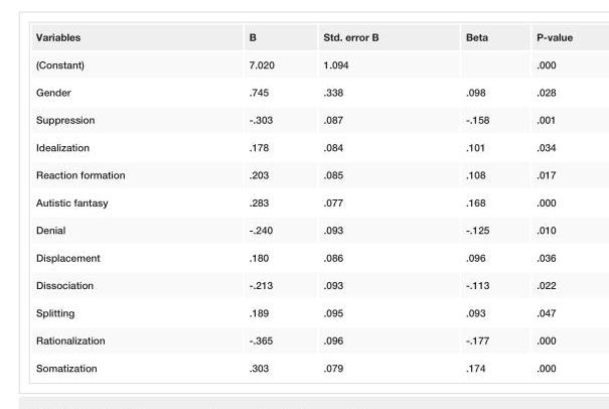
<table><tbody><tr><td>Variables</td><td>B</td><td>Std. error B</td><td>Beta</td><td>P-value</td></tr><tr><td>(Constant)</td><td>7.020</td><td>1.094</td><td></td><td>.000</td></tr><tr><td>Gender</td><td>.745</td><td>.338</td><td>.098</td><td>.028</td></tr><tr><td>Suppression</td><td>-.303</td><td>.087</td><td>-.158</td><td>.001</td></tr><tr><td>Idealization</td><td>.178</td><td>.084</td><td>.101</td><td>.034</td></tr><tr><td>Reaction formation</td><td>.203</td><td>.085</td><td>.108</td><td>.017</td></tr><tr><td>Autistic fantasy</td><td>.283</td><td>.077</td><td>.168</td><td>.000</td></tr><tr><td>Denial</td><td>-.240</td><td>.093</td><td>-.125</td><td>.010</td></tr><tr><td>Displacement</td><td>.180</td><td>.086</td><td>.096</td><td>.036</td></tr><tr><td>Dissociation</td><td>-.213</td><td>.093</td><td>-.113</td><td>.022</td></tr><tr><td>Splitting</td><td>.189</td><td>.095</td><td>.093</td><td>.047</td></tr><tr><td>Rationalization</td><td>-.365</td><td>.096</td><td>-.177</td><td>.000</td></tr><tr><td>Somatization</td><td>.303</td><td>.079</td><td>.174</td><td>.000</td></tr></tbody></table>